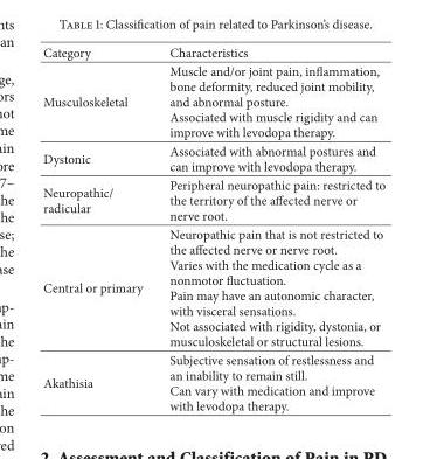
<table><thead><tr><td>Category</td><td>Characteristics</td></tr></thead><tbody><tr><td>Musculoskeletal</td><td>Muscle and/or joint pain, inflammation, bone deformity, reduced joint mobility, and abnormal posture. Associated with muscle rigidity and can improve with levodopa therapy.</td></tr><tr><td>Dystonic</td><td>Associated with abnormal postures and can improve with levodopa therapy.</td></tr><tr><td>Neuropathic/ radicular</td><td>Peripheral neuropathic pain: restricted to the territory of the affected nerve or nerve root.</td></tr><tr><td>Central or primary</td><td>Neuropathic pain that is not restricted to the affected nerve or nerve root. Varies with the medication cycle as a nonmotor fluctuation. Pain may have an autonomic character, with visceral sensations. Not associated with rigidity, dystonia, or musculoskeletal or structural lesions.</td></tr><tr><td>Akathisia</td><td>Subjective sensation of restlessness and an inability to remain still. Can vary with medication and improve with levodopa therapy.</td></tr></tbody></table>